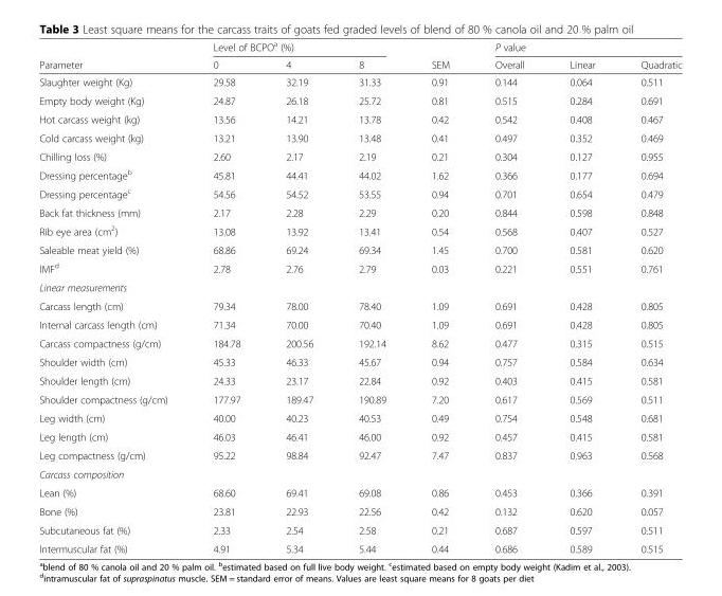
<table><thead><tr><td rowspan="2">Parameter</td><td colspan="3">Level of BCPO<sup>a</sup> (%)</td><td rowspan="2">SEM</td><td colspan="3">P value</td></tr><tr><td>0</td><td>4</td><td>8</td><td>Overall</td><td>Linear</td><td>Quadratic</td></tr></thead><tbody><tr><td>Slaughter weight (Kg)</td><td>29.58</td><td>32.19</td><td>31.33</td><td>0.91</td><td>0.144</td><td>0.064</td><td>0.511</td></tr><tr><td>Empty body weight (Kg)</td><td>24.87</td><td>26.18</td><td>25.72</td><td>0.81</td><td>0.515</td><td>0.284</td><td>0.691</td></tr><tr><td>Hot carcass weight (kg)</td><td>13.56</td><td>14.21</td><td>13.78</td><td>0.42</td><td>0.542</td><td>0.408</td><td>0.467</td></tr><tr><td>Cold carcass weight (kg)</td><td>13.21</td><td>13.90</td><td>13.48</td><td>0.41</td><td>0.497</td><td>0.352</td><td>0.469</td></tr><tr><td>Chilling loss (%)</td><td>2.60</td><td>2.17</td><td>2.19</td><td>0.21</td><td>0.304</td><td>0.127</td><td>0.955</td></tr><tr><td>Dressing percentage<sup>b</sup></td><td>45.81</td><td>44.41</td><td>44.02</td><td>1.62</td><td>0.366</td><td>0.177</td><td>0.694</td></tr><tr><td>Dressing percentage<sup>c</sup></td><td>54.56</td><td>54.52</td><td>53.55</td><td>0.94</td><td>0.701</td><td>0.654</td><td>0.479</td></tr><tr><td>Back fat thickness (mm)</td><td>2.17</td><td>2.28</td><td>2.29</td><td>0.20</td><td>0.844</td><td>0.598</td><td>0.848</td></tr><tr><td>Rib eye area (cm<sup>2</sup>)</td><td>13.08</td><td>13.92</td><td>13.41</td><td>0.54</td><td>0.568</td><td>0.407</td><td>0.527</td></tr><tr><td>Saleable meat yield (%)</td><td>68.86</td><td>69.24</td><td>69.34</td><td>1.45</td><td>0.700</td><td>0.581</td><td>0.620</td></tr><tr><td>IMF<sup>d</sup></td><td>2.78</td><td>2.76</td><td>2.79</td><td>0.03</td><td>0.221</td><td>0.551</td><td>0.761</td></tr><tr><td colspan="8">Linear measurements</td></tr><tr><td>Carcass length (cm)</td><td>79.34</td><td>78.00</td><td>78.40</td><td>1.09</td><td>0.691</td><td>0.428</td><td>0.805</td></tr><tr><td>Internal carcass length (cm)</td><td>71.34</td><td>70.00</td><td>70.40</td><td>1.09</td><td>0.691</td><td>0.428</td><td>0.805</td></tr><tr><td>Carcass compactness (g/cm)</td><td>184.78</td><td>200.56</td><td>192.14</td><td>8.62</td><td>0.477</td><td>0.315</td><td>0.515</td></tr><tr><td>Shoulder width (cm)</td><td>45.33</td><td>46.33</td><td>45.67</td><td>0.94</td><td>0.757</td><td>0.584</td><td>0.634</td></tr><tr><td>Shoulder length (cm)</td><td>24.33</td><td>23.17</td><td>22.84</td><td>0.92</td><td>0.403</td><td>0.415</td><td>0.581</td></tr><tr><td>Shoulder compactness (g/cm)</td><td>177.97</td><td>189.47</td><td>190.89</td><td>7.20</td><td>0.617</td><td>0.569</td><td>0.511</td></tr><tr><td>Leg width (cm)</td><td>40.00</td><td>40.23</td><td>40.53</td><td>0.49</td><td>0.754</td><td>0.548</td><td>0.681</td></tr><tr><td>Leg length (cm)</td><td>46.03</td><td>46.41</td><td>46.00</td><td>0.92</td><td>0.457</td><td>0.415</td><td>0.581</td></tr><tr><td>Leg compactness (g/cm)</td><td>95.22</td><td>98.84</td><td>92.47</td><td>7.47</td><td>0.837</td><td>0.963</td><td>0.568</td></tr><tr><td colspan="8">Carcass composition</td></tr><tr><td>Lean (%)</td><td>68.60</td><td>69.41</td><td>69.08</td><td>0.86</td><td>0.453</td><td>0.366</td><td>0.391</td></tr><tr><td>Bone (%)</td><td>23.81</td><td>22.93</td><td>22.56</td><td>0.42</td><td>0.132</td><td>0.620</td><td>0.057</td></tr><tr><td>Subcutaneous fat (%)</td><td>2.33</td><td>2.54</td><td>2.58</td><td>0.21</td><td>0.687</td><td>0.597</td><td>0.511</td></tr><tr><td>Intermuscular fat (%)</td><td>4.91</td><td>5.34</td><td>5.44</td><td>0.44</td><td>0.686</td><td>0.589</td><td>0.515</td></tr></tbody></table>